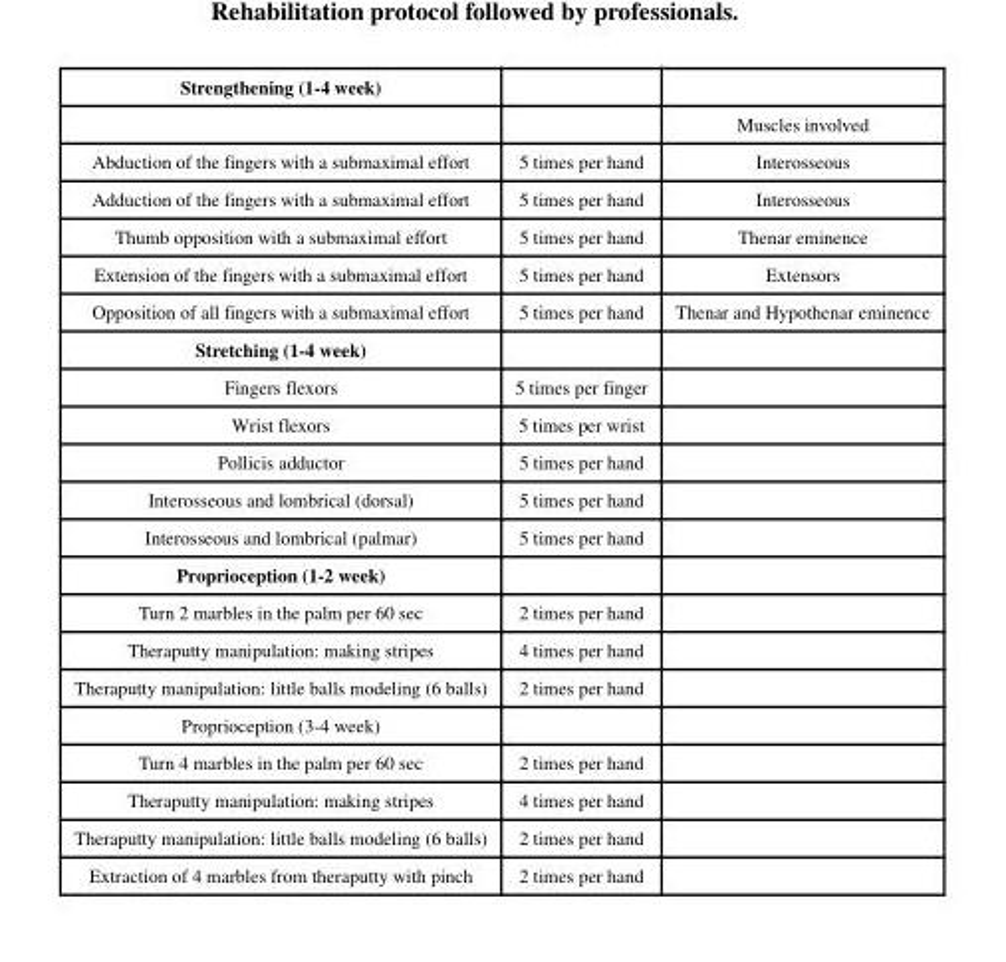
<table><tbody><tr><td colspan="3">Strengthening (1-4 week)</td></tr><tr><td></td><td></td><td>Muscles involved</td></tr><tr><td>Abduction of the fingers with a submaximal effort</td><td>5 times per hand</td><td>Interosseous</td></tr><tr><td>Adduction of the fingers with a submaximal effort</td><td>5 times per hand</td><td>Interosseous</td></tr><tr><td>Thumb opposition with a submaximal effort</td><td>5 times per hand</td><td>Thenar eminence</td></tr><tr><td>Extension of the fingers with a submaximal effort</td><td>5 times per hand</td><td>Extensors</td></tr><tr><td>Opposition of all fingers with a submaximal effort</td><td>5 times per hand</td><td>Thenar and Hypothenar eminence</td></tr><tr><td colspan="3">Stretching (1-4 week)</td></tr><tr><td>Fingers flexors</td><td>5 times per finger</td><td></td></tr><tr><td>Wrist flexors</td><td>5 times per wrist</td><td></td></tr><tr><td>Pollicis adductor</td><td>5 times per hand</td><td></td></tr><tr><td>Interosseous and lombrical (dorsal)</td><td>5 times per hand</td><td></td></tr><tr><td>Interosseous and lombrical (palmar)</td><td>5 times per hand</td><td></td></tr><tr><td colspan="3">Proprioception (1-2 week)</td></tr><tr><td>Turn 2 marbles in the palm per 60 sec</td><td>2 times per hand</td><td></td></tr><tr><td>Theraputty manipulation: making stripes</td><td>4 times per hand</td><td></td></tr><tr><td>Theraputty manipulation: little balls modeling (6 balls)</td><td>2 times per hand</td><td></td></tr><tr><td colspan="3">Proprioception (3-4 week)</td></tr><tr><td>Turn 4 marbles in the palm per 60 sec</td><td>2 times per hand</td><td></td></tr><tr><td>Theraputty manipulation: making stripes</td><td>4 times per hand</td><td></td></tr><tr><td>Theraputty manipulation: little balls modeling (6 balls)</td><td>2 times per hand</td><td></td></tr><tr><td>Extraction of 4 marbles from theraputty with pinch</td><td>2 times per hand</td><td></td></tr></tbody></table>